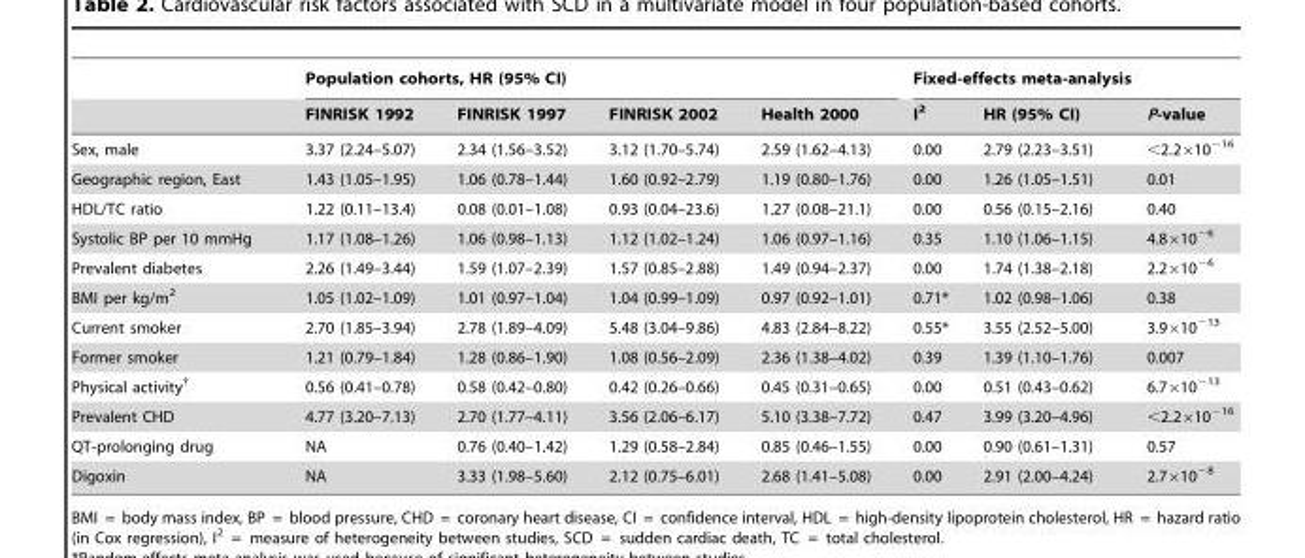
<table><thead><tr><td rowspan="2"></td><td colspan="4">Population cohorts, HR (95% CI)</td><td colspan="3">Fixed-effects meta-analysis</td></tr><tr><td>FINRISK 1992</td><td>FINRISK 1997</td><td>FINRISK 2002</td><td>Health 2000</td><td>I<sup>2</sup></td><td>HR (95% CI)</td><td>P-value</td></tr></thead><tbody><tr><td>Sex, male</td><td>3.37 (2.24–5.07)</td><td>2.34 (1.56–3.52)</td><td>3.12 (1.70–5.74)</td><td>2.59 (1.62–4.13)</td><td>0.00</td><td>2.79 (2.23–3.51)</td><td>&lt;2.2×10<sup>−16</sup></td></tr><tr><td>Geographic region, East</td><td>1.43 (1.05–1.95)</td><td>1.06 (0.78–1.44)</td><td>1.60 (0.92–2.79)</td><td>1.19 (0.80–1.76)</td><td>0.00</td><td>1.26 (1.05–1.51)</td><td>0.01</td></tr><tr><td>HDL/TC ratio</td><td>1.22 (0.11–13.4)</td><td>0.08 (0.01–1.08)</td><td>0.93 (0.04–23.6)</td><td>1.27 (0.08–21.1)</td><td>0.00</td><td>0.56 (0.15–2.16)</td><td>0.40</td></tr><tr><td>Systolic BP per 10 mmHg</td><td>1.17 (1.08–1.26)</td><td>1.06 (0.98–1.13)</td><td>1.12 (1.02–1.24)</td><td>1.06 (0.97–1.16)</td><td>0.35</td><td>1.10 (1.06–1.15)</td><td>4.8×10<sup>−6</sup></td></tr><tr><td>Prevalent diabetes</td><td>2.26 (1.49–3.44)</td><td>1.59 (1.07–2.39)</td><td>1.57 (0.85–2.88)</td><td>1.49 (0.94–2.37)</td><td>0.00</td><td>1.74 (1.38–2.18)</td><td>2.2×10<sup>−6</sup></td></tr><tr><td>BMI per kg/m<sup>2</sup></td><td>1.05 (1.02–1.09)</td><td>1.01 (0.97–1.04)</td><td>1.04 (0.99–1.09)</td><td>0.97 (0.92–1.01)</td><td>0.71*</td><td>1.02 (0.98–1.06)</td><td>0.38</td></tr><tr><td>Current smoker</td><td>2.70 (1.85–3.94)</td><td>2.78 (1.89–4.09)</td><td>5.48 (3.04–9.86)</td><td>4.83 (2.84–8.22)</td><td>0.55*</td><td>3.55 (2.52–5.00)</td><td>3.9×10<sup>−13</sup></td></tr><tr><td>Former smoker</td><td>1.21 (0.79–1.84)</td><td>1.28 (0.86–1.90)</td><td>1.08 (0.56–2.09)</td><td>2.36 (1.38–4.02)</td><td>0.39</td><td>1.39 (1.10–1.76)</td><td>0.007</td></tr><tr><td>Physical activity†</td><td>0.56 (0.41–0.78)</td><td>0.58 (0.42–0.80)</td><td>0.42 (0.26–0.66)</td><td>0.45 (0.31–0.65)</td><td>0.00</td><td>0.51 (0.43–0.62)</td><td>6.7×10<sup>−13</sup></td></tr><tr><td>Prevalent CHD</td><td>4.77 (3.20–7.13)</td><td>2.70 (1.77–4.11)</td><td>3.56 (2.06–6.17)</td><td>5.10 (3.38–7.72)</td><td>0.47</td><td>3.99 (3.20–4.96)</td><td>&lt;2.2×10<sup>−16</sup></td></tr><tr><td>QT-prolonging drug</td><td>NA</td><td>0.76 (0.40–1.42)</td><td>1.29 (0.58–2.84)</td><td>0.85 (0.46–1.55)</td><td>0.00</td><td>0.90 (0.61–1.31)</td><td>0.57</td></tr><tr><td>Digoxin</td><td>NA</td><td>3.33 (1.98–5.60)</td><td>2.12 (0.75–6.01)</td><td>2.68 (1.41–5.08)</td><td>0.00</td><td>2.91 (2.00–4.24)</td><td>2.7×10<sup>−8</sup></td></tr></tbody></table>